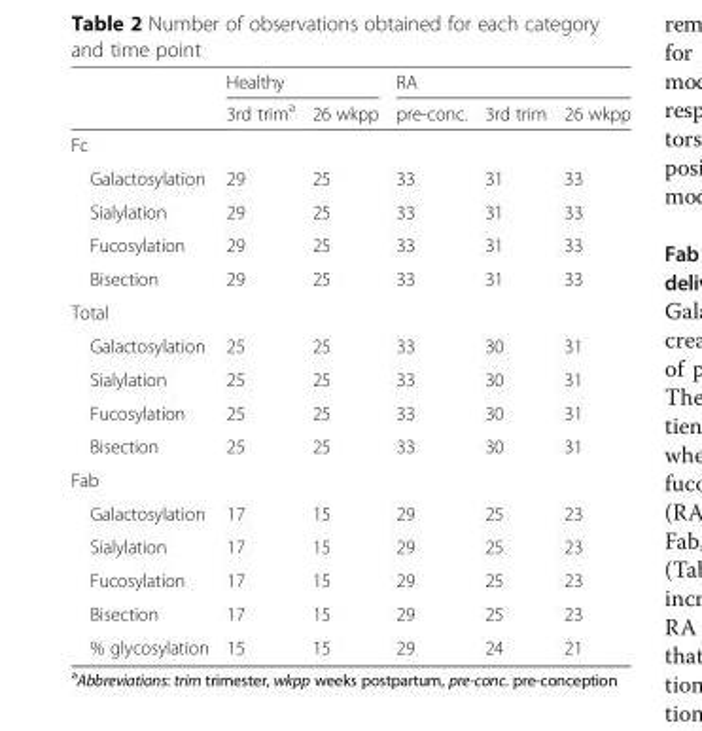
<table><thead><tr><td rowspan="2"></td><td colspan="2">Healthy</td><td colspan="3">RA</td></tr><tr><td>3rd trim<sup>a</sup></td><td>26 wkpp</td><td>pre-conc.</td><td>3rd trim</td><td>26 wkpp</td></tr></thead><tbody><tr><td colspan="6">Fc</td></tr><tr><td>Galactosylation</td><td>29</td><td>25</td><td>33</td><td>31</td><td>33</td></tr><tr><td>Sialylation</td><td>29</td><td>25</td><td>33</td><td>31</td><td>33</td></tr><tr><td>Fucosylation</td><td>29</td><td>25</td><td>33</td><td>31</td><td>33</td></tr><tr><td>Bisection</td><td>29</td><td>25</td><td>33</td><td>31</td><td>33</td></tr><tr><td colspan="6">Total</td></tr><tr><td>Galactosylation</td><td>25</td><td>25</td><td>33</td><td>30</td><td>31</td></tr><tr><td>Sialylation</td><td>25</td><td>25</td><td>33</td><td>30</td><td>31</td></tr><tr><td>Fucosylation</td><td>25</td><td>25</td><td>33</td><td>30</td><td>31</td></tr><tr><td>Bisection</td><td>25</td><td>25</td><td>33</td><td>30</td><td>31</td></tr><tr><td colspan="6">Fab</td></tr><tr><td>Galactosylation</td><td>17</td><td>15</td><td>29</td><td>25</td><td>23</td></tr><tr><td>Sialylation</td><td>17</td><td>15</td><td>29</td><td>25</td><td>23</td></tr><tr><td>Fucosylation</td><td>17</td><td>15</td><td>29</td><td>25</td><td>23</td></tr><tr><td>Bisection</td><td>17</td><td>15</td><td>29</td><td>25</td><td>23</td></tr><tr><td>% glycosylation</td><td>15</td><td>15</td><td>29</td><td>24</td><td>21</td></tr></tbody></table>